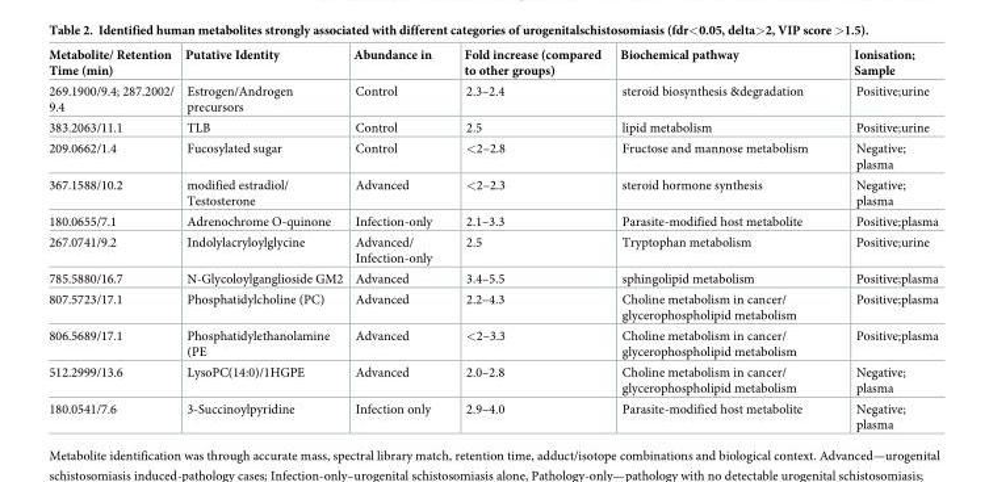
<table><thead><tr><td>Metabolite/ Retention Time (min)</td><td>Putative Identity</td><td>Abundance in</td><td>Fold increase (compared to other groups)</td><td>Biochemical pathway</td><td>Ionisation; Sample</td></tr></thead><tbody><tr><td>269.1900/9.4; 287.2002/ 9.4</td><td>Estrogen/Androgen precursors</td><td>Control</td><td>2.3–2.4</td><td>steroid biosynthesis &amp;degradation</td><td>Positive;urine</td></tr><tr><td>383.2063/11.1</td><td>TLB</td><td>Control</td><td>2.5</td><td>lipid metabolism</td><td>Positive;urine</td></tr><tr><td>209.0662/1.4</td><td>Fucosylated sugar</td><td>Control</td><td>&lt;2–2.8</td><td>Fructose and mannose metabolism</td><td>Negative; plasma</td></tr><tr><td>367.1588/10.2</td><td>modified estradiol/ Testosterone</td><td>Advanced</td><td>&lt;2–2.3</td><td>steroid hormone synthesis</td><td>Negative; plasma</td></tr><tr><td>180.0655/7.1</td><td>Adrenochrome O-quinone</td><td>Infection-only</td><td>2.1–3.3</td><td>Parasite-modified host metabolite</td><td>Positive;plasma</td></tr><tr><td>267.0741/9.2</td><td>Indolylacryloylglycine</td><td>Advanced/ Infection-only</td><td>2.5</td><td>Tryptophan metabolism</td><td>Positive;urine</td></tr><tr><td>785.5880/16.7</td><td>N-Glycoloylganglioside GM2</td><td>Advanced</td><td>3.4–5.5</td><td>sphingolipid metabolism</td><td>Positive;plasma</td></tr><tr><td>807.5723/17.1</td><td>Phosphatidylcholine (PC)</td><td>Advanced</td><td>2.2–4.3</td><td>Choline metabolism in cancer/ glycerophospholipid metabolism</td><td>Positive;plasma</td></tr><tr><td>806.5689/17.1</td><td>Phosphatidylethanolamine (PE</td><td>Advanced</td><td>&lt;2–3.3</td><td>Choline metabolism in cancer/ glycerophospholipid metabolism</td><td>Positive;plasma</td></tr><tr><td>512.2999/13.6</td><td>LysoPC(14:0)/1HGPE</td><td>Advanced</td><td>2.0–2.8</td><td>Choline metabolism in cancer/ glycerophospholipid metabolism</td><td>Negative; plasma</td></tr><tr><td>180.0541/7.6</td><td>3-Succinoylpyridine</td><td>Infection only</td><td>2.9–4.0</td><td>Parasite-modified host metabolite</td><td>Negative; plasma</td></tr></tbody></table>